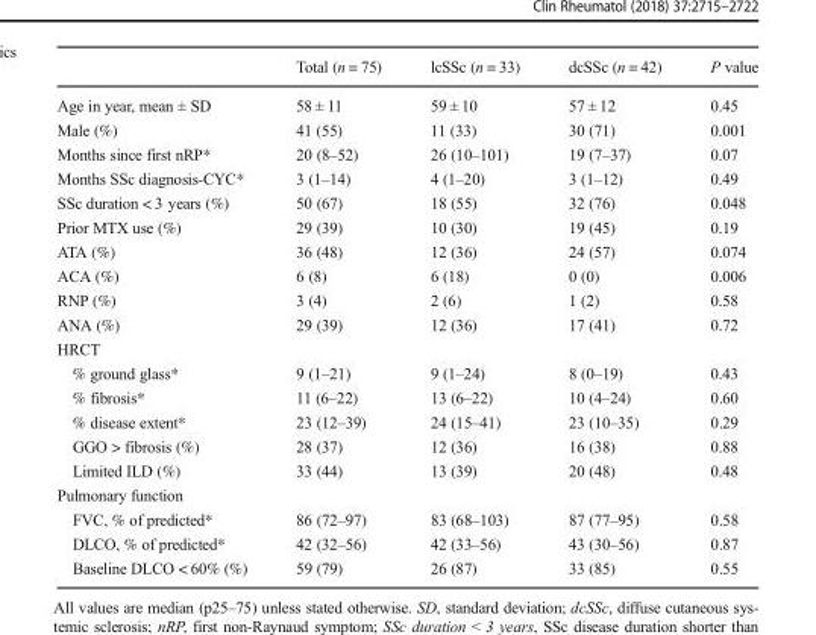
<table><thead><tr><td></td><td>Total (n = 75)</td><td>lcSSc (n = 33)</td><td>dcSSc (n = 42)</td><td>P value</td></tr></thead><tbody><tr><td>Age in year, mean ± SD</td><td>58 ± 11</td><td>59 ± 10</td><td>57 ± 12</td><td>0.45</td></tr><tr><td>Male (%)</td><td>41 (55)</td><td>11 (33)</td><td>30 (71)</td><td>0.001</td></tr><tr><td>Months since first nRP*</td><td>20 (8–52)</td><td>26 (10–101)</td><td>19 (7–37)</td><td>0.07</td></tr><tr><td>Months SSc diagnosis-CYC*</td><td>3 (1–14)</td><td>4 (1–20)</td><td>3 (1–12)</td><td>0.49</td></tr><tr><td>SSc duration &lt; 3 years (%)</td><td>50 (67)</td><td>18 (55)</td><td>32 (76)</td><td>0.048</td></tr><tr><td>Prior MTX use (%)</td><td>29 (39)</td><td>10 (30)</td><td>19 (45)</td><td>0.19</td></tr><tr><td>ATA (%)</td><td>36 (48)</td><td>12 (36)</td><td>24 (57)</td><td>0.074</td></tr><tr><td>ACA (%)</td><td>6 (8)</td><td>6 (18)</td><td>0 (0)</td><td>0.006</td></tr><tr><td>RNP (%)</td><td>3 (4)</td><td>2 (6)</td><td>1 (2)</td><td>0.58</td></tr><tr><td>ANA (%)</td><td>29 (39)</td><td>12 (36)</td><td>17 (41)</td><td>0.72</td></tr><tr><td colspan="5">HRCT</td></tr><tr><td>% ground glass*</td><td>9 (1–21)</td><td>9 (1–24)</td><td>8 (0–19)</td><td>0.43</td></tr><tr><td>% fibrosis*</td><td>11 (6–22)</td><td>13 (6–22)</td><td>10 (4–24)</td><td>0.60</td></tr><tr><td>% disease extent*</td><td>23 (12–39)</td><td>24 (15–41)</td><td>23 (10–35)</td><td>0.29</td></tr><tr><td>GGO &gt; fibrosis (%)</td><td>28 (37)</td><td>12 (36)</td><td>16 (38)</td><td>0.88</td></tr><tr><td>Limited ILD (%)</td><td>33 (44)</td><td>13 (39)</td><td>20 (48)</td><td>0.48</td></tr><tr><td colspan="5">Pulmonary function</td></tr><tr><td>FVC, % of predicted*</td><td>86 (72–97)</td><td>83 (68–103)</td><td>87 (77–95)</td><td>0.58</td></tr><tr><td>DLCO, % of predicted*</td><td>42 (32–56)</td><td>42 (33–56)</td><td>43 (30–56)</td><td>0.87</td></tr><tr><td>Baseline DLCO &lt; 60% (%)</td><td>59 (79)</td><td>26 (87)</td><td>33 (85)</td><td>0.55</td></tr></tbody></table>